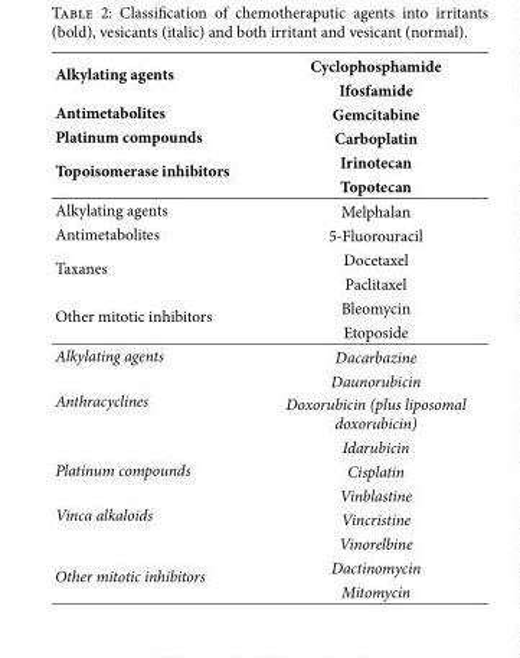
<table><tbody><tr><td rowspan="2">Alkylating agents</td><td>Cyclophosphamide</td></tr><tr><td>Ifosfamide</td></tr><tr><td>Antimetabolites</td><td>Gemcitabine</td></tr><tr><td>Platinum compounds</td><td>Carboplatin</td></tr><tr><td rowspan="2">Topoisomerase inhibitors</td><td>Irinotecan</td></tr><tr><td>Topotecan</td></tr><tr><td>Alkylating agents</td><td>Melphalan</td></tr><tr><td>Antimetabolites</td><td>5-Fluorouracil</td></tr><tr><td rowspan="2">Taxanes</td><td>Docetaxel</td></tr><tr><td>Paclitaxel</td></tr><tr><td rowspan="2">Other mitotic inhibitors</td><td>Bleomycin</td></tr><tr><td>Etoposide</td></tr><tr><td>Alkylating agents</td><td>Dacarbazine</td></tr><tr><td rowspan="3">Anthracyclines</td><td>Daunorubicin</td></tr><tr><td>Doxorubicin (plus liposomal doxorubicin)</td></tr><tr><td>Idarubicin</td></tr><tr><td>Platinum compounds</td><td>Cisplatin</td></tr><tr><td rowspan="3">Vinca alkaloids</td><td>Vinblastine</td></tr><tr><td>Vincristine</td></tr><tr><td>Vinorelbine</td></tr><tr><td rowspan="2">Other mitotic inhibitors</td><td>Dactinomycin</td></tr><tr><td>Mitomycin</td></tr></tbody></table>